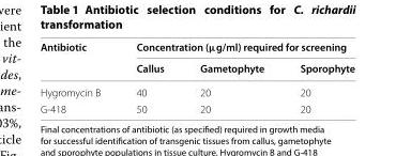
<table><thead><tr><td rowspan="2">Antibiotic</td><td colspan="3">Concentration (μg/ml) required for screening</td></tr><tr><td>Callus</td><td>Gametophyte</td><td>Sporophyte</td></tr></thead><tbody><tr><td>Hygromycin B</td><td>40</td><td>20</td><td>20</td></tr><tr><td>G-418</td><td>50</td><td>20</td><td>20</td></tr></tbody></table>